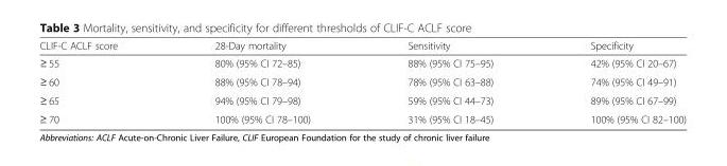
<table><thead><tr><td>CLIF-C ACLF score</td><td>28-Day mortality</td><td>Sensitivity</td><td>Specificity</td></tr></thead><tbody><tr><td>≥ 55</td><td>80% (95% CI 72–85)</td><td>88% (95% CI 75–95)</td><td>42% (95% CI 20–67)</td></tr><tr><td>≥ 60</td><td>88% (95% CI 78–94)</td><td>78% (95% CI 63–88)</td><td>74% (95% CI 49–91)</td></tr><tr><td>≥ 65</td><td>94% (95% CI 79–98)</td><td>59% (95% CI 44–73)</td><td>89% (95% CI 67–99)</td></tr><tr><td>≥ 70</td><td>100% (95% CI 78–100)</td><td>31% (95% CI 18–45)</td><td>100% (95% CI 82–100)</td></tr></tbody></table>